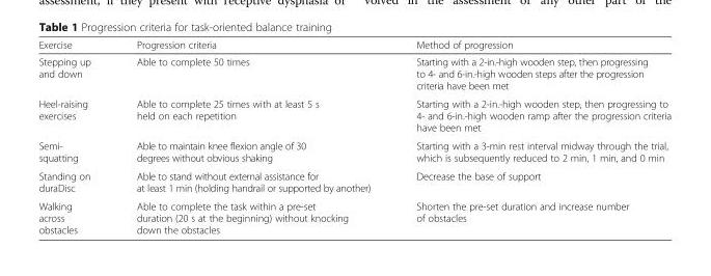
<table><thead><tr><td>Exercise</td><td>Progression criteria</td><td>Method of progression</td></tr></thead><tbody><tr><td>Stepping up and down</td><td>Able to complete 50 times</td><td>Starting with a 2-in.-high wooden step, then progressing to 4- and 6-in.-high wooden steps after the progression criteria have been met</td></tr><tr><td>Heel-raising exercises</td><td>Able to complete 25 times with at least 5 s held on each repetition</td><td>Starting with a 2-in.-high wooden step, then progressing to 4- and 6-in.-high wooden ramp after the progression criteria have been met</td></tr><tr><td>Semi- squatting</td><td>Able to maintain knee flexion angle of 30 degrees without obvious shaking</td><td>Starting with a 3-min rest interval midway through the trial, which is subsequently reduced to 2 min, 1 min, and 0 min</td></tr><tr><td>Standing on duraDisc</td><td>Able to stand without external assistance for at least 1 min (holding handrail or supported by another)</td><td>Decrease the base of support</td></tr><tr><td>Walking across obstacles</td><td>Able to complete the task within a pre-set duration (20 s at the beginning) without knocking down the obstacles</td><td>Shorten the pre-set duration and increase number of obstacles</td></tr></tbody></table>